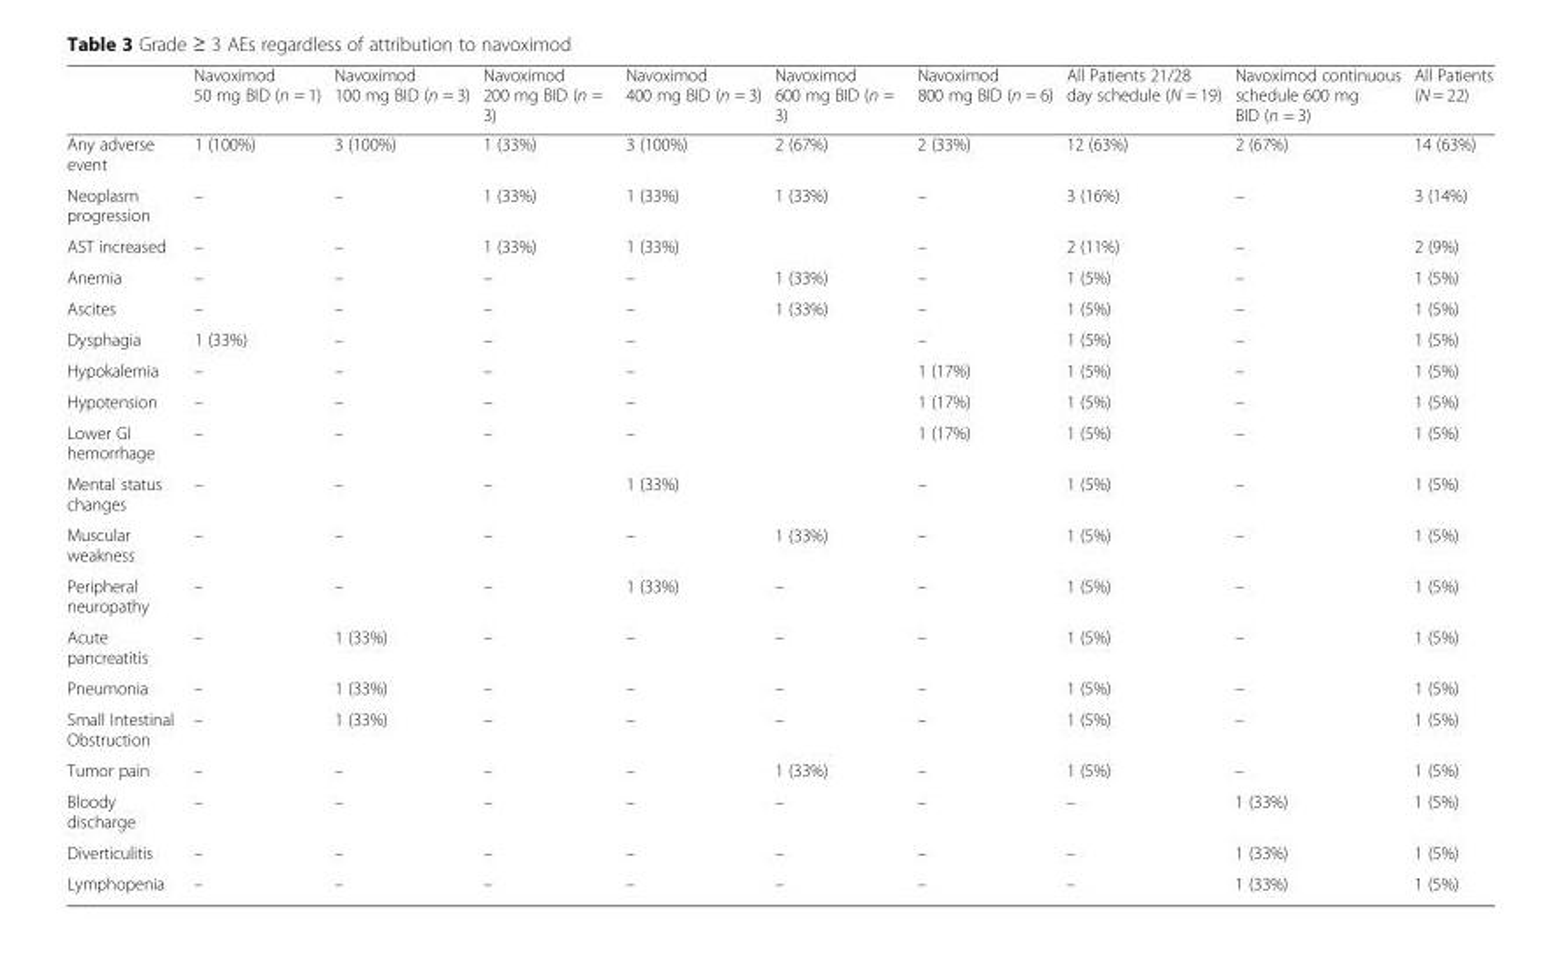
<table><thead><tr><td></td><td>Navoximod 50 mg BID (n = 1)</td><td>Navoximod 100 mg BID (n = 3)</td><td>Navoximod 200 mg BID (n = 3)</td><td>Navoximod 400 mg BID (n = 3)</td><td>Navoximod 600 mg BID (n = 3)</td><td>Navoximod 800 mg BID (n = 6)</td><td>All Patients 21/28 day schedule (N = 19)</td><td>Navoximod continuous schedule 600 mg BID (n = 3)</td><td>All Patients (N = 22)</td></tr></thead><tbody><tr><td>Any adverse event</td><td>1 (100%)</td><td>3 (100%)</td><td>1 (33%)</td><td>3 (100%)</td><td>2 (67%)</td><td>2 (33%)</td><td>12 (63%)</td><td>2 (67%)</td><td>14 (63%)</td></tr><tr><td>Neoplasm progression</td><td>–</td><td>–</td><td>1 (33%)</td><td>1 (33%)</td><td>1 (33%)</td><td>–</td><td>3 (16%)</td><td>–</td><td>3 (14%)</td></tr><tr><td>AST increased</td><td>–</td><td>–</td><td>1 (33%)</td><td>1 (33%)</td><td></td><td>–</td><td>2 (11%)</td><td>–</td><td>2 (9%)</td></tr><tr><td>Anemia</td><td>–</td><td>–</td><td>–</td><td>–</td><td>1 (33%)</td><td>–</td><td>1 (5%)</td><td>–</td><td>1 (5%)</td></tr><tr><td>Ascites</td><td>–</td><td>–</td><td>–</td><td>–</td><td>1 (33%)</td><td>–</td><td>1 (5%)</td><td>–</td><td>1 (5%)</td></tr><tr><td>Dysphagia</td><td>1 (33%)</td><td>–</td><td>–</td><td>–</td><td></td><td>–</td><td>1 (5%)</td><td>–</td><td>1 (5%)</td></tr><tr><td>Hypokalemia</td><td>–</td><td>–</td><td>–</td><td>–</td><td></td><td>1 (17%)</td><td>1 (5%)</td><td>–</td><td>1 (5%)</td></tr><tr><td>Hypotension</td><td>–</td><td>–</td><td>–</td><td>–</td><td></td><td>1 (17%)</td><td>1 (5%)</td><td>–</td><td>1 (5%)</td></tr><tr><td>Lower GI hemorrhage</td><td>–</td><td>–</td><td>–</td><td>–</td><td></td><td>1 (17%)</td><td>1 (5%)</td><td>–</td><td>1 (5%)</td></tr><tr><td>Mental status changes</td><td>–</td><td>–</td><td>–</td><td>1 (33%)</td><td></td><td>–</td><td>1 (5%)</td><td>–</td><td>1 (5%)</td></tr><tr><td>Muscular weakness</td><td>–</td><td>–</td><td>–</td><td>–</td><td>1 (33%)</td><td>–</td><td>1 (5%)</td><td>–</td><td>1 (5%)</td></tr><tr><td>Peripheral neuropathy</td><td>–</td><td>–</td><td>–</td><td>1 (33%)</td><td>–</td><td>–</td><td>1 (5%)</td><td>–</td><td>1 (5%)</td></tr><tr><td>Acute pancreatitis</td><td>–</td><td>1 (33%)</td><td>–</td><td>–</td><td>–</td><td>–</td><td>1 (5%)</td><td>–</td><td>1 (5%)</td></tr><tr><td>Pneumonia</td><td>–</td><td>1 (33%)</td><td>–</td><td>–</td><td>–</td><td>–</td><td>1 (5%)</td><td>–</td><td>1 (5%)</td></tr><tr><td>Small Intestinal Obstruction</td><td>–</td><td>1 (33%)</td><td>–</td><td>–</td><td>–</td><td>–</td><td>1 (5%)</td><td>–</td><td>1 (5%)</td></tr><tr><td>Tumor pain</td><td>–</td><td>–</td><td>–</td><td>–</td><td>1 (33%)</td><td>–</td><td>1 (5%)</td><td>–</td><td>1 (5%)</td></tr><tr><td>Bloody discharge</td><td>–</td><td>–</td><td>–</td><td>–</td><td>–</td><td>–</td><td>–</td><td>1 (33%)</td><td>1 (5%)</td></tr><tr><td>Diverticulitis</td><td>–</td><td>–</td><td>–</td><td>–</td><td>–</td><td>–</td><td>–</td><td>1 (33%)</td><td>1 (5%)</td></tr><tr><td>Lymphopenia</td><td>–</td><td>–</td><td>–</td><td>–</td><td>–</td><td>–</td><td>–</td><td>1 (33%)</td><td>1 (5%)</td></tr></tbody></table>